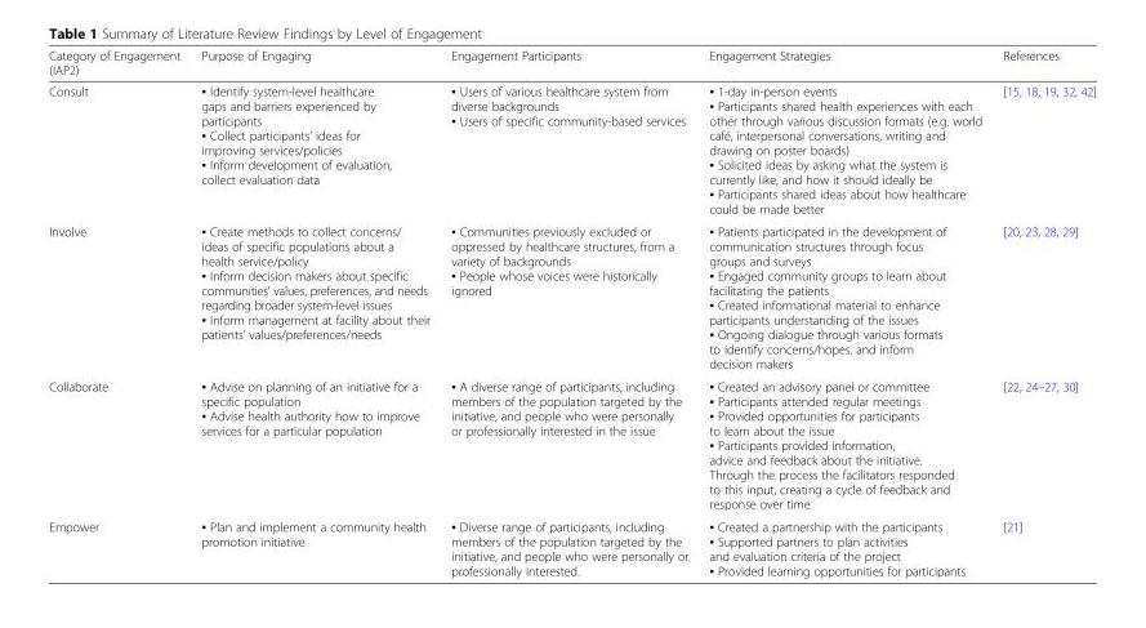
<table><thead><tr><td>Category of Engagement (IAP2)</td><td>Purpose of Engaging</td><td>Engagement Participants</td><td>Engagement Strategies</td><td>References</td></tr></thead><tbody><tr><td>Consult</td><td>▪ Identify system-level healthcare gaps and barriers experienced by participants ▪ Collect participants’ ideas for improving services/policies ▪ Inform development of evaluation, collect evaluation data</td><td>▪ Users of various healthcare system from diverse backgrounds ▪ Users of specific community-based services</td><td>▪ 1-day in-person events ▪ Participants shared health experiences with each other through various discussion formats (e.g. world café, interpersonal conversations, writing and drawing on poster boards) ▪ Solicited ideas by asking what the system is currently like, and how it should ideally be ▪ Participants shared ideas about how healthcare could be made better</td><td>[15, 18, 19, 32, 42]</td></tr><tr><td>Involve</td><td>▪ Create methods to collect concerns/ ideas of specific populations about a health service/policy ▪ Inform decision makers about specific communities’ values, preferences, and needs regarding broader system-level issues ▪ Inform management at facility about their patients’ values/preferences/needs</td><td>▪ Communities previously excluded or oppressed by healthcare structures, from a variety of backgrounds ▪ People whose voices were historically ignored</td><td>▪ Patients participated in the development of communication structures through focus groups and surveys ▪ Engaged community groups to learn about facilitating the patients ▪ Created informational material to enhance participants understanding of the issues ▪ Ongoing dialogue through various formats to identify concerns/hopes, and inform decision makers</td><td>[20, 23, 28, 29]</td></tr><tr><td>Collaborate</td><td>▪ Advise on planning of an initiative for a specific population ▪ Advise health authority how to improve services for a particular population</td><td>▪ A diverse range of participants, including members of the population targeted by the initiative, and people who were personally or professionally interested in the issue</td><td>▪ Created an advisory panel or committee ▪ Participants attended regular meetings ▪ Provided opportunities for participants to learn about the issue ▪ Participants provided information, advice and feedback about the initiative. Through the process the facilitators responded to this input, creating a cycle of feedback and response over time</td><td>[22, 24–27, 30]</td></tr><tr><td>Empower</td><td>▪ Plan and implement a community health promotion initiative</td><td>▪ Diverse range of participants, including members of the population targeted by the initiative, and people who were personally or professionally interested.</td><td>▪ Created a partnership with the participants ▪ Supported partners to plan activities and evaluation criteria of the project ▪ Provided learning opportunities for participants</td><td>[21]</td></tr></tbody></table>